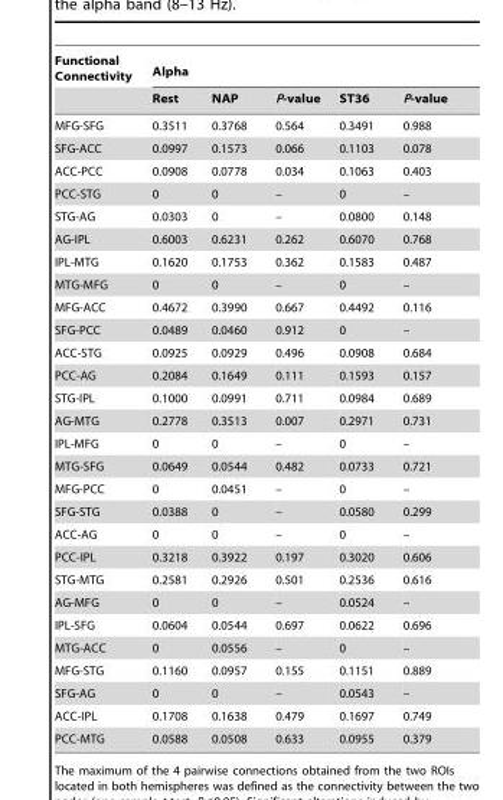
<table><thead><tr><td rowspan="2">Functional Connectivity</td><td colspan="5">Alpha</td></tr><tr><td>Rest</td><td>NAP</td><td>P-value</td><td>ST36</td><td>P-value</td></tr></thead><tbody><tr><td>MFG-SFG</td><td>0.3511</td><td>0.3768</td><td>0.564</td><td>0.3491</td><td>0.988</td></tr><tr><td>SFG-ACC</td><td>0.0997</td><td>0.1573</td><td>0.066</td><td>0.1103</td><td>0.078</td></tr><tr><td>ACC-PCC</td><td>0.0908</td><td>0.0778</td><td>0.034</td><td>0.1063</td><td>0.403</td></tr><tr><td>PCC-STG</td><td>0</td><td>0</td><td>–</td><td>0</td><td>–</td></tr><tr><td>STG-AG</td><td>0.0303</td><td>0</td><td>–</td><td>0.0800</td><td>0.148</td></tr><tr><td>AG-IPL</td><td>0.6003</td><td>0.6231</td><td>0.262</td><td>0.6070</td><td>0.768</td></tr><tr><td>IPL-MTG</td><td>0.1620</td><td>0.1753</td><td>0.362</td><td>0.1583</td><td>0.487</td></tr><tr><td>MTG-MFG</td><td>0</td><td>0</td><td>–</td><td>0</td><td>–</td></tr><tr><td>MFG-ACC</td><td>0.4672</td><td>0.3990</td><td>0.667</td><td>0.4492</td><td>0.116</td></tr><tr><td>SFG-PCC</td><td>0.0489</td><td>0.0460</td><td>0.912</td><td>0</td><td>–</td></tr><tr><td>ACC-STG</td><td>0.0925</td><td>0.0929</td><td>0.496</td><td>0.0908</td><td>0.684</td></tr><tr><td>PCC-AG</td><td>0.2084</td><td>0.1649</td><td>0.111</td><td>0.1593</td><td>0.157</td></tr><tr><td>STG-IPL</td><td>0.1000</td><td>0.0991</td><td>0.711</td><td>0.0984</td><td>0.689</td></tr><tr><td>AG-MTG</td><td>0.2778</td><td>0.3513</td><td>0.007</td><td>0.2971</td><td>0.731</td></tr><tr><td>IPL-MFG</td><td>0</td><td>0</td><td>–</td><td>0</td><td>–</td></tr><tr><td>MTG-SFG</td><td>0.0649</td><td>0.0544</td><td>0.482</td><td>0.0733</td><td>0.721</td></tr><tr><td>MFG-PCC</td><td>0</td><td>0.0451</td><td>–</td><td>0</td><td>–</td></tr><tr><td>SFG-STG</td><td>0.0388</td><td>0</td><td>–</td><td>0.0580</td><td>0.299</td></tr><tr><td>ACC-AG</td><td>0</td><td>0</td><td>–</td><td>0</td><td>–</td></tr><tr><td>PCC-IPL</td><td>0.3218</td><td>0.3922</td><td>0.197</td><td>0.3020</td><td>0.606</td></tr><tr><td>STG-MTG</td><td>0.2581</td><td>0.2926</td><td>0.501</td><td>0.2536</td><td>0.616</td></tr><tr><td>AG-MFG</td><td>0</td><td>0</td><td>–</td><td>0.0524</td><td>–</td></tr><tr><td>IPL-SFG</td><td>0.0604</td><td>0.0544</td><td>0.697</td><td>0.0622</td><td>0.696</td></tr><tr><td>MTG-ACC</td><td>0</td><td>0.0556</td><td>–</td><td>0</td><td>–</td></tr><tr><td>MFG-STG</td><td>0.1160</td><td>0.0957</td><td>0.155</td><td>0.1151</td><td>0.889</td></tr><tr><td>SFG-AG</td><td>0</td><td>0</td><td>–</td><td>0.0543</td><td>–</td></tr><tr><td>ACC-IPL</td><td>0.1708</td><td>0.1638</td><td>0.479</td><td>0.1697</td><td>0.749</td></tr><tr><td>PCC-MTG</td><td>0.0588</td><td>0.0508</td><td>0.633</td><td>0.0955</td><td>0.379</td></tr></tbody></table>